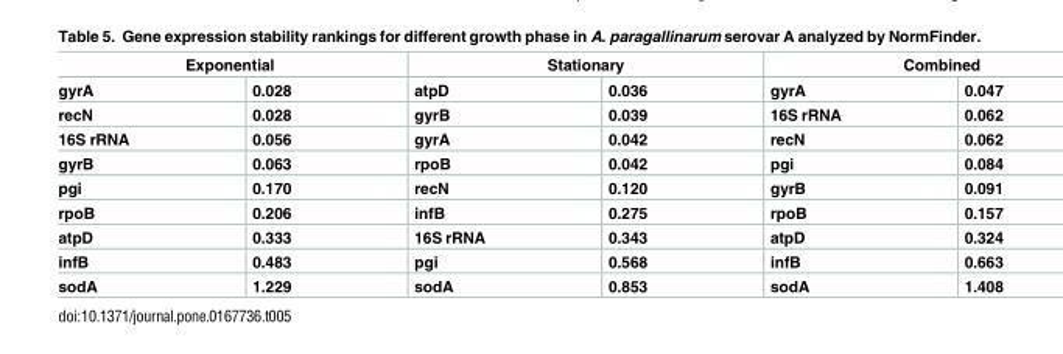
<table><thead><tr><td colspan="2">Exponential</td><td colspan="2">Stationary</td><td colspan="2">Combined</td></tr><tr><td>gyrA</td><td>0.028</td><td>atpD</td><td>0.036</td><td>gyrA</td><td>0.047</td></tr></thead><tbody><tr><td>recN</td><td>0.028</td><td>gyrB</td><td>0.039</td><td>16S rRNA</td><td>0.062</td></tr><tr><td>16S rRNA</td><td>0.056</td><td>gyrA</td><td>0.042</td><td>recN</td><td>0.062</td></tr><tr><td>gyrB</td><td>0.063</td><td>rpoB</td><td>0.042</td><td>pgi</td><td>0.084</td></tr><tr><td>pgi</td><td>0.170</td><td>recN</td><td>0.120</td><td>gyrB</td><td>0.091</td></tr><tr><td>rpoB</td><td>0.206</td><td>infB</td><td>0.275</td><td>rpoB</td><td>0.157</td></tr><tr><td>atpD</td><td>0.333</td><td>16S rRNA</td><td>0.343</td><td>atpD</td><td>0.324</td></tr><tr><td>infB</td><td>0.483</td><td>pgi</td><td>0.568</td><td>infB</td><td>0.663</td></tr><tr><td>sodA</td><td>1.229</td><td>sodA</td><td>0.853</td><td>sodA</td><td>1.408</td></tr></tbody></table>